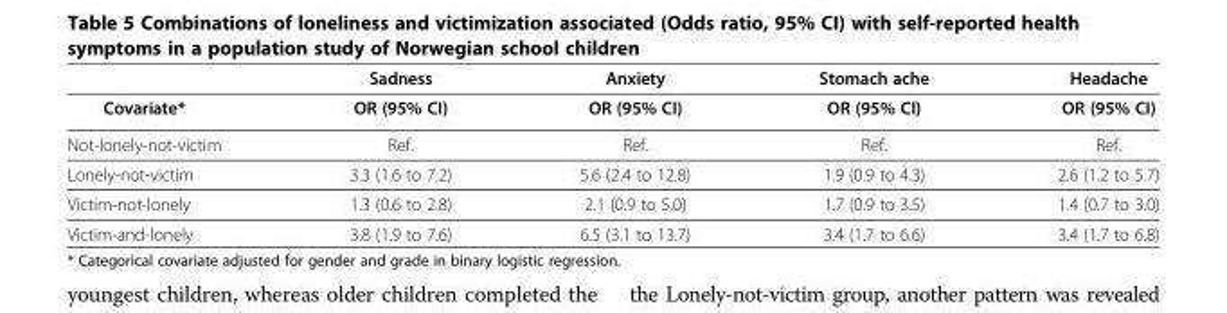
<table><thead><tr><td rowspan="2">Covariate*</td><td rowspan="2">Sadness OR (95% CI)</td><td rowspan="2">Anxiety OR (95% CI)</td><td rowspan="2">Stomach ache OR (95% CI)</td><td rowspan="2">Headache OR (95% CI)</td></tr><tr></tr></thead><tbody><tr><td>Not-lonely-not-victim</td><td>Ref.</td><td>Ref.</td><td>Ref.</td><td>Ref.</td></tr><tr><td>Lonely-not-victim</td><td>3.3 (1.6 to 7.2)</td><td>5.6 (2.4 to 12.8)</td><td>1.9 (0.9 to 4.3)</td><td>2.6 (1.2 to 5.7)</td></tr><tr><td>Victim-not-lonely</td><td>1.3 (0.6 to 2.8)</td><td>2.1 (0.9 to 5.0)</td><td>1.7 (0.9 to 3.5)</td><td>1.4 (0.7 to 3.0)</td></tr><tr><td>Victim-and-lonely</td><td>3.8 (1.9 to 7.6)</td><td>6.5 (3.1 to 13.7)</td><td>3.4 (1.7 to 6.6)</td><td>3.4 (1.7 to 6.8)</td></tr></tbody></table>